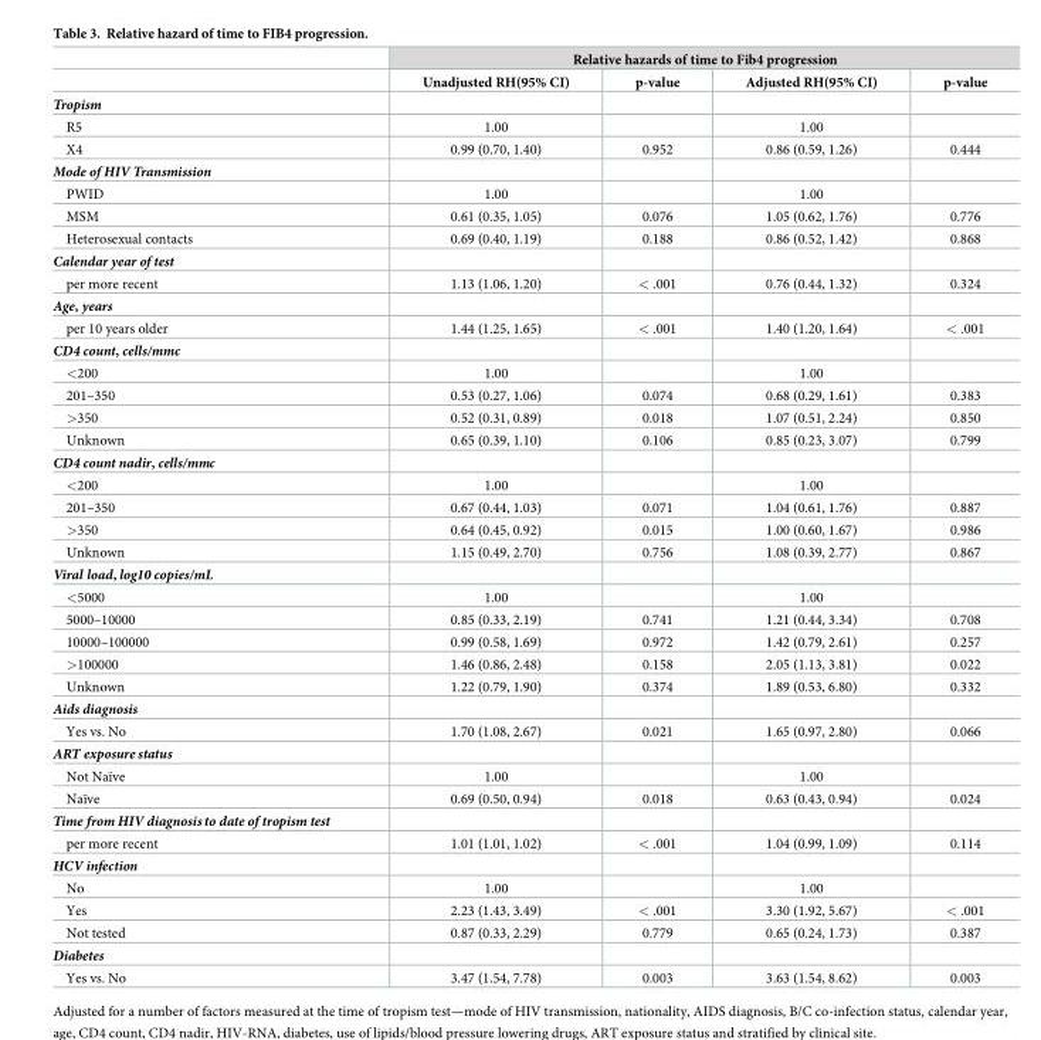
<table><thead><tr><td rowspan="2"></td><td colspan="4">Relative hazards of time to Fib4 progression</td></tr><tr><td>Unadjusted RH(95% CI)</td><td>p-value</td><td>Adjusted RH(95% CI)</td><td>p-value</td></tr></thead><tbody><tr><td colspan="5">Tropism</td></tr><tr><td>R5</td><td>1.00</td><td></td><td>1.00</td><td></td></tr><tr><td>X4</td><td>0.99 (0.70, 1.40)</td><td>0.952</td><td>0.86 (0.59, 1.26)</td><td>0.444</td></tr><tr><td colspan="5">Mode of HIV Transmission</td></tr><tr><td>PWID</td><td>1.00</td><td></td><td>1.00</td><td></td></tr><tr><td>MSM</td><td>0.61 (0.35, 1.05)</td><td>0.076</td><td>1.05 (0.62, 1.76)</td><td>0.776</td></tr><tr><td>Heterosexual contacts</td><td>0.69 (0.40, 1.19)</td><td>0.188</td><td>0.86 (0.52, 1.42)</td><td>0.868</td></tr><tr><td colspan="5">Calendar year of test</td></tr><tr><td>per more recent</td><td>1.13 (1.06, 1.20)</td><td>&lt; .001</td><td>0.76 (0.44, 1.32)</td><td>0.324</td></tr><tr><td colspan="5">Age, years</td></tr><tr><td>per 10 years older</td><td>1.44 (1.25, 1.65)</td><td>&lt; .001</td><td>1.40 (1.20, 1.64)</td><td>&lt; .001</td></tr><tr><td colspan="5">CD4 count, cells/mmc</td></tr><tr><td>&lt;200</td><td>1.00</td><td></td><td>1.00</td><td></td></tr><tr><td>201–350</td><td>0.53 (0.27, 1.06)</td><td>0.074</td><td>0.68 (0.29, 1.61)</td><td>0.383</td></tr><tr><td>&gt;350</td><td>0.52 (0.31, 0.89)</td><td>0.018</td><td>1.07 (0.51, 2.24)</td><td>0.850</td></tr><tr><td>Unknown</td><td>0.65 (0.39, 1.10)</td><td>0.106</td><td>0.85 (0.23, 3.07)</td><td>0.799</td></tr><tr><td colspan="5">CD4 count nadir, cells/mmc</td></tr><tr><td>&lt;200</td><td>1.00</td><td></td><td>1.00</td><td></td></tr><tr><td>201–350</td><td>0.67 (0.44, 1.03)</td><td>0.071</td><td>1.04 (0.61, 1.76)</td><td>0.887</td></tr><tr><td>&gt;350</td><td>0.64 (0.45, 0.92)</td><td>0.015</td><td>1.00 (0.60, 1.67)</td><td>0.986</td></tr><tr><td>Unknown</td><td>1.15 (0.49, 2.70)</td><td>0.756</td><td>1.08 (0.39, 2.77)</td><td>0.867</td></tr><tr><td colspan="5">Viral load, log10 copies/mL</td></tr><tr><td>&lt;5000</td><td>1.00</td><td></td><td>1.00</td><td></td></tr><tr><td>5000–10000</td><td>0.85 (0.33, 2.19)</td><td>0.741</td><td>1.21 (0.44, 3.34)</td><td>0.708</td></tr><tr><td>10000–100000</td><td>0.99 (0.58, 1.69)</td><td>0.972</td><td>1.42 (0.79, 2.61)</td><td>0.257</td></tr><tr><td>&gt;100000</td><td>1.46 (0.86, 2.48)</td><td>0.158</td><td>2.05 (1.13, 3.81)</td><td>0.022</td></tr><tr><td>Unknown</td><td>1.22 (0.79, 1.90)</td><td>0.374</td><td>1.89 (0.53, 6.80)</td><td>0.332</td></tr><tr><td colspan="5">Aids diagnosis</td></tr><tr><td>Yes vs. No</td><td>1.70 (1.08, 2.67)</td><td>0.021</td><td>1.65 (0.97, 2.80)</td><td>0.066</td></tr><tr><td colspan="5">ART exposure status</td></tr><tr><td>Not Naïve</td><td>1.00</td><td></td><td>1.00</td><td></td></tr><tr><td>Naïve</td><td>0.69 (0.50, 0.94)</td><td>0.018</td><td>0.63 (0.43, 0.94)</td><td>0.024</td></tr><tr><td colspan="5">Time from HIV diagnosis to date of tropism test</td></tr><tr><td>per more recent</td><td>1.01 (1.01, 1.02)</td><td>&lt; .001</td><td>1.04 (0.99, 1.09)</td><td>0.114</td></tr><tr><td colspan="5">HCV infection</td></tr><tr><td>No</td><td>1.00</td><td></td><td>1.00</td><td></td></tr><tr><td>Yes</td><td>2.23 (1.43, 3.49)</td><td>&lt; .001</td><td>3.30 (1.92, 5.67)</td><td>&lt; .001</td></tr><tr><td>Not tested</td><td>0.87 (0.33, 2.29)</td><td>0.779</td><td>0.65 (0.24, 1.73)</td><td>0.387</td></tr><tr><td colspan="5">Diabetes</td></tr><tr><td>Yes vs. No</td><td>3.47 (1.54, 7.78)</td><td>0.003</td><td>3.63 (1.54, 8.62)</td><td>0.003</td></tr></tbody></table>